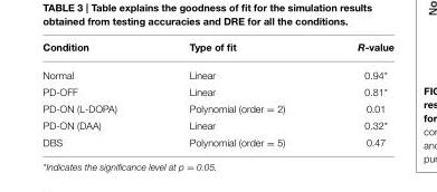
<table><thead><tr><td>Condition</td><td>Type of fit</td><td>R-value</td></tr></thead><tbody><tr><td>Normal</td><td>Linear</td><td>0.94*</td></tr><tr><td>PD-OFF</td><td>Linear</td><td>0.81*</td></tr><tr><td>PD-ON (L-DOPA)</td><td>Polynomial (order = 2)</td><td>0.01</td></tr><tr><td>PD-ON (DAA)</td><td>Linear</td><td>0.32*</td></tr><tr><td>DBS</td><td>Polynomial (order = 5)</td><td>0.47</td></tr></tbody></table>